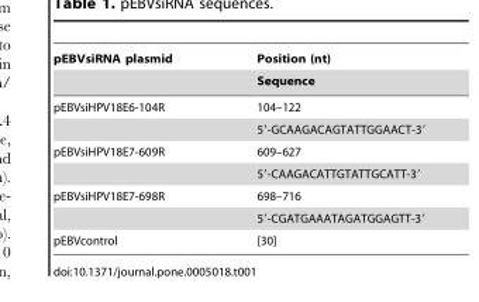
<table><thead><tr><td rowspan="2">pEBVsiRNA plasmid</td><td rowspan="2">Position (nt) Sequence</td></tr><tr></tr></thead><tbody><tr><td rowspan="2">pEBVsiHPV18E6-104R</td><td>104–122</td></tr><tr><td>5′-GCAAGACAGTATTGGAACT-3′</td></tr><tr><td rowspan="2">pEBVsiHPV18E7-609R</td><td>609–627</td></tr><tr><td>5′-CAAGACATTGTATTGCATT-3′</td></tr><tr><td rowspan="2">pEBVsiHPV18E7-698R</td><td>698–716</td></tr><tr><td>5′-CGATGAAATAGATGGAGTT-3′</td></tr><tr><td>pEBVcontrol</td><td>[30]</td></tr></tbody></table>